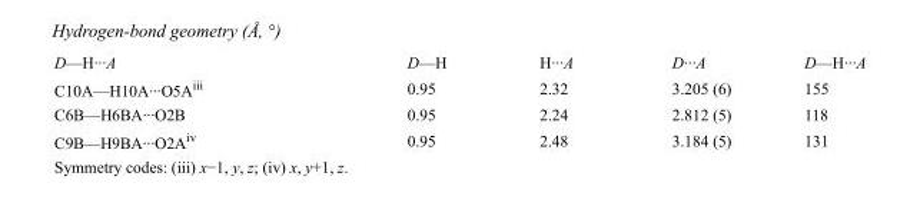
<table><tbody><tr><td>D—H···A</td><td>D—H</td><td>H···A</td><td>D···A</td><td>D—H···A</td></tr><tr><td>C10A—H10A···O5A<sup>iii</sup></td><td>0.95</td><td>2.32</td><td>3.205 (6)</td><td>155</td></tr><tr><td>C6B—H6BA···O2B</td><td>0.95</td><td>2.24</td><td>2.812 (5)</td><td>118</td></tr><tr><td>C9B—H9BA···O2A<sup>iv</sup></td><td>0.95</td><td>2.48</td><td>3.184 (5)</td><td>131</td></tr></tbody></table>